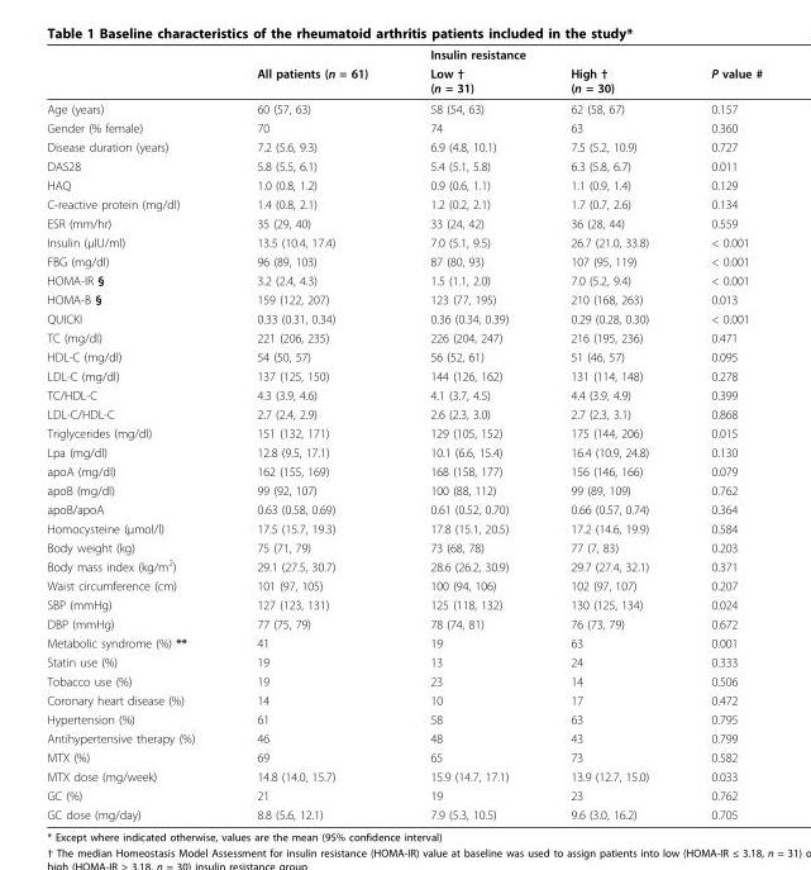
<table><thead><tr><td rowspan="2"></td><td rowspan="2">All patients (n = 61)</td><td colspan="2">Insulin resistance</td><td rowspan="2">P value #</td></tr><tr><td>Low † (n = 31)</td><td>High † (n = 30)</td></tr></thead><tbody><tr><td>Age (years)</td><td>60 (57, 63)</td><td>58 (54, 63)</td><td>62 (58, 67)</td><td>0.157</td></tr><tr><td>Gender (% female)</td><td>70</td><td>74</td><td>63</td><td>0.360</td></tr><tr><td>Disease duration (years)</td><td>7.2 (5.6, 9.3)</td><td>6.9 (4.8, 10.1)</td><td>7.5 (5.2, 10.9)</td><td>0.727</td></tr><tr><td>DAS28</td><td>5.8 (5.5, 6.1)</td><td>5.4 (5.1, 5.8)</td><td>6.3 (5.8, 6.7)</td><td>0.011</td></tr><tr><td>HAQ</td><td>1.0 (0.8, 1.2)</td><td>0.9 (0.6, 1.1)</td><td>1.1 (0.9, 1.4)</td><td>0.129</td></tr><tr><td>C-reactive protein (mg/dl)</td><td>1.4 (0.8, 2.1)</td><td>1.2 (0.2, 2.1)</td><td>1.7 (0.7, 2.6)</td><td>0.134</td></tr><tr><td>ESR (mm/hr)</td><td>35 (29, 40)</td><td>33 (24, 42)</td><td>36 (28, 44)</td><td>0.559</td></tr><tr><td>Insulin (μIU/ml)</td><td>13.5 (10.4, 17.4)</td><td>7.0 (5.1, 9.5)</td><td>26.7 (21.0, 33.8)</td><td>&lt; 0.001</td></tr><tr><td>FBG (mg/dl)</td><td>96 (89, 103)</td><td>87 (80, 93)</td><td>107 (95, 119)</td><td>&lt; 0.001</td></tr><tr><td>HOMA-IR §</td><td>3.2 (2.4, 4.3)</td><td>1.5 (1.1, 2.0)</td><td>7.0 (5.2, 9.4)</td><td>&lt; 0.001</td></tr><tr><td>HOMA-B §</td><td>159 (122, 207)</td><td>123 (77, 195)</td><td>210 (168, 263)</td><td>0.013</td></tr><tr><td>QUICKI</td><td>0.33 (0.31, 0.34)</td><td>0.36 (0.34, 0.39)</td><td>0.29 (0.28, 0.30)</td><td>&lt; 0.001</td></tr><tr><td>TC (mg/dl)</td><td>221 (206, 235)</td><td>226 (204, 247)</td><td>216 (195, 236)</td><td>0.471</td></tr><tr><td>HDL-C (mg/dl)</td><td>54 (50, 57)</td><td>56 (52, 61)</td><td>51 (46, 57)</td><td>0.095</td></tr><tr><td>LDL-C (mg/dl)</td><td>137 (125, 150)</td><td>144 (126, 162)</td><td>131 (114, 148)</td><td>0.278</td></tr><tr><td>TC/HDL-C</td><td>4.3 (3.9, 4.6)</td><td>4.1 (3.7, 4.5)</td><td>4.4 (3.9, 4.9)</td><td>0.399</td></tr><tr><td>LDL-C/HDL-C</td><td>2.7 (2.4, 2.9)</td><td>2.6 (2.3, 3.0)</td><td>2.7 (2.3, 3.1)</td><td>0.868</td></tr><tr><td>Triglycerides (mg/dl)</td><td>151 (132, 171)</td><td>129 (105, 152)</td><td>175 (144, 206)</td><td>0.015</td></tr><tr><td>Lpa (mg/dl)</td><td>12.8 (9.5, 17.1)</td><td>10.1 (6.6, 15.4)</td><td>16.4 (10.9, 24.8)</td><td>0.130</td></tr><tr><td>apoA (mg/dl)</td><td>162 (155, 169)</td><td>168 (158, 177)</td><td>156 (146, 166)</td><td>0.079</td></tr><tr><td>apoB (mg/dl)</td><td>99 (92, 107)</td><td>100 (88, 112)</td><td>99 (89, 109)</td><td>0.762</td></tr><tr><td>apoB/apoA</td><td>0.63 (0.58, 0.69)</td><td>0.61 (0.52, 0.70)</td><td>0.66 (0.57, 0.74)</td><td>0.364</td></tr><tr><td>Homocysteine (μmol/l)</td><td>17.5 (15.7, 19.3)</td><td>17.8 (15.1, 20.5)</td><td>17.2 (14.6, 19.9)</td><td>0.584</td></tr><tr><td>Body weight (kg)</td><td>75 (71, 79)</td><td>73 (68, 78)</td><td>77 (7, 83)</td><td>0.203</td></tr><tr><td>Body mass index (kg/m<sup>2</sup>)</td><td>29.1 (27.5, 30.7)</td><td>28.6 (26.2, 30.9)</td><td>29.7 (27.4, 32.1)</td><td>0.371</td></tr><tr><td>Waist circumference (cm)</td><td>101 (97, 105)</td><td>100 (94, 106)</td><td>102 (97, 107)</td><td>0.207</td></tr><tr><td>SBP (mmHg)</td><td>127 (123, 131)</td><td>125 (118, 132)</td><td>130 (125, 134)</td><td>0.024</td></tr><tr><td>DBP (mmHg)</td><td>77 (75, 79)</td><td>78 (74, 81)</td><td>76 (73, 79)</td><td>0.672</td></tr><tr><td>Metabolic syndrome (%) **</td><td>41</td><td>19</td><td>63</td><td>0.001</td></tr><tr><td>Statin use (%)</td><td>19</td><td>13</td><td>24</td><td>0.333</td></tr><tr><td>Tobacco use (%)</td><td>19</td><td>23</td><td>14</td><td>0.506</td></tr><tr><td>Coronary heart disease (%)</td><td>14</td><td>10</td><td>17</td><td>0.472</td></tr><tr><td>Hypertension (%)</td><td>61</td><td>58</td><td>63</td><td>0.795</td></tr><tr><td>Antihypertensive therapy (%)</td><td>46</td><td>48</td><td>43</td><td>0.799</td></tr><tr><td>MTX (%)</td><td>69</td><td>65</td><td>73</td><td>0.582</td></tr><tr><td>MTX dose (mg/week)</td><td>14.8 (14.0, 15.7)</td><td>15.9 (14.7, 17.1)</td><td>13.9 (12.7, 15.0)</td><td>0.033</td></tr><tr><td>GC (%)</td><td>21</td><td>19</td><td>23</td><td>0.762</td></tr><tr><td>GC dose (mg/day)</td><td>8.8 (5.6, 12.1)</td><td>7.9 (5.3, 10.5)</td><td>9.6 (3.0, 16.2)</td><td>0.705</td></tr></tbody></table>